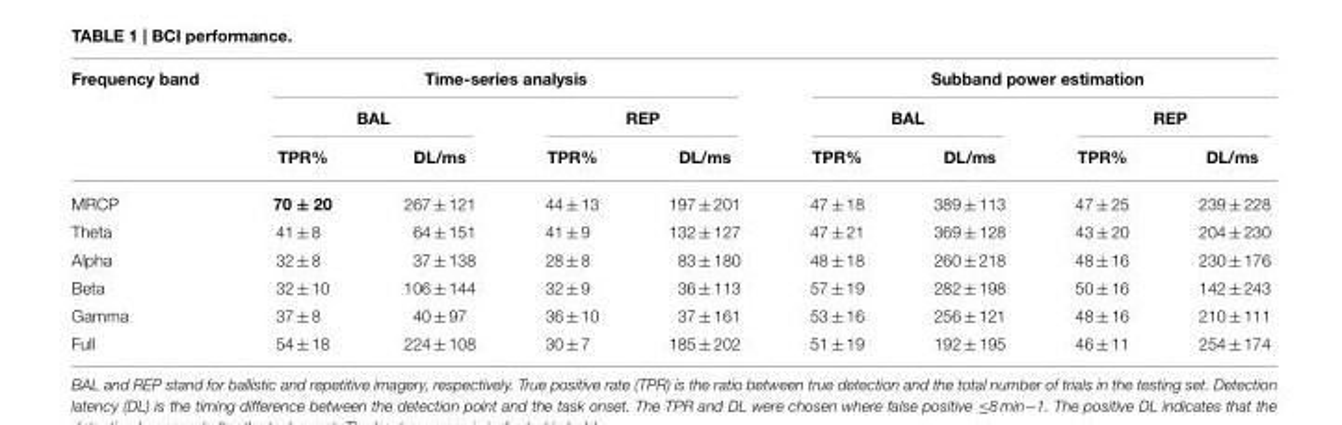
<table><thead><tr><td rowspan="3">Frequency band</td><td colspan="4">Time-series analysis</td><td colspan="4">Subband power estimation</td></tr><tr><td colspan="2">BAL</td><td colspan="2">REP</td><td colspan="2">BAL</td><td colspan="2">REP</td></tr><tr><td>TPR%</td><td>DL/ms</td><td>TPR%</td><td>DL/ms</td><td>TPR%</td><td>DL/ms</td><td>TPR%</td><td>DL/ms</td></tr></thead><tbody><tr><td>MRCP</td><td>70 ± 20</td><td>267 ± 121</td><td>44 ± 13</td><td>197 ± 201</td><td>47 ± 18</td><td>389 ± 113</td><td>47 ± 25</td><td>239 ± 228</td></tr><tr><td>Theta</td><td>41 ± 8</td><td>64 ± 151</td><td>41 ± 9</td><td>132 ± 127</td><td>47 ± 21</td><td>369 ± 128</td><td>43 ± 20</td><td>204 ± 230</td></tr><tr><td>Alpha</td><td>32 ± 8</td><td>37 ± 138</td><td>28 ± 8</td><td>83 ± 180</td><td>48 ± 18</td><td>260 ± 218</td><td>48 ± 16</td><td>230 ± 176</td></tr><tr><td>Beta</td><td>32 ± 10</td><td>106 ± 144</td><td>32 ± 9</td><td>36 ± 113</td><td>57 ± 19</td><td>282 ± 198</td><td>50 ± 16</td><td>142 ± 243</td></tr><tr><td>Gamma</td><td>37 ± 8</td><td>40 ± 97</td><td>36 ± 10</td><td>37 ± 161</td><td>53 ± 16</td><td>256 ± 121</td><td>48 ± 16</td><td>210 ± 111</td></tr><tr><td>Full</td><td>54 ± 18</td><td>224 ± 108</td><td>30 ± 7</td><td>185 ± 202</td><td>51 ± 19</td><td>192 ± 195</td><td>46 ± 11</td><td>254 ± 174</td></tr></tbody></table>